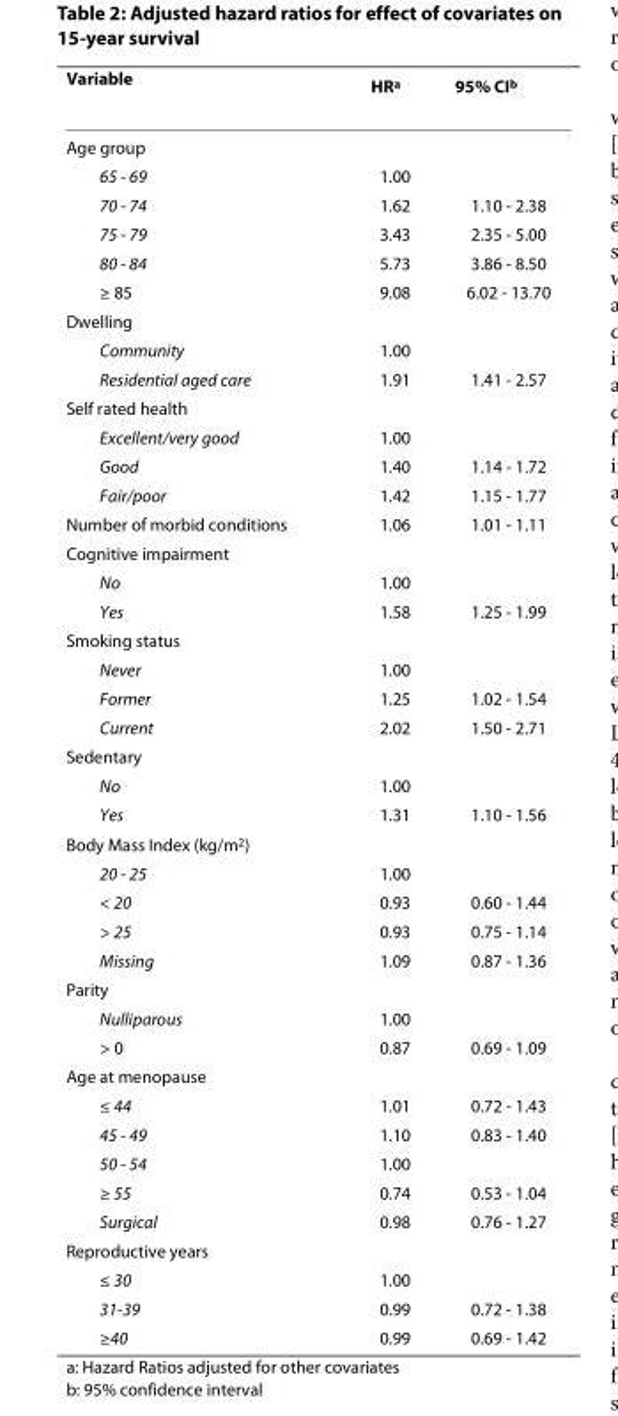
<table><thead><tr><td>Variable</td><td>HR<sup>a</sup></td><td>95% CI<sup>b</sup></td></tr></thead><tbody><tr><td colspan="3">Age group</td></tr><tr><td>65 - 69</td><td>1.00</td><td></td></tr><tr><td>70 - 74</td><td>1.62</td><td>1.10 - 2.38</td></tr><tr><td>75 - 79</td><td>3.43</td><td>2.35 - 5.00</td></tr><tr><td>80 - 84</td><td>5.73</td><td>3.86 - 8.50</td></tr><tr><td>≥ 85</td><td>9.08</td><td>6.02 - 13.70</td></tr><tr><td colspan="3">Dwelling</td></tr><tr><td>Community</td><td>1.00</td><td></td></tr><tr><td>Residential aged care</td><td>1.91</td><td>1.41 - 2.57</td></tr><tr><td colspan="3">Self rated health</td></tr><tr><td>Excellent/very good</td><td>1.00</td><td></td></tr><tr><td>Good</td><td>1.40</td><td>1.14 - 1.72</td></tr><tr><td>Fair/poor</td><td>1.42</td><td>1.15 - 1.77</td></tr><tr><td>Number of morbid conditions</td><td>1.06</td><td>1.01 - 1.11</td></tr><tr><td colspan="3">Cognitive impairment</td></tr><tr><td>No</td><td>1.00</td><td></td></tr><tr><td>Yes</td><td>1.58</td><td>1.25 - 1.99</td></tr><tr><td colspan="3">Smoking status</td></tr><tr><td>Never</td><td>1.00</td><td></td></tr><tr><td>Former</td><td>1.25</td><td>1.02 - 1.54</td></tr><tr><td>Current</td><td>2.02</td><td>1.50 - 2.71</td></tr><tr><td colspan="3">Sedentary</td></tr><tr><td>No</td><td>1.00</td><td></td></tr><tr><td>Yes</td><td>1.31</td><td>1.10 - 1.56</td></tr><tr><td colspan="3">Body Mass Index (kg/m<sup>2</sup>)</td></tr><tr><td>20 - 25</td><td>1.00</td><td></td></tr><tr><td>&lt; 20</td><td>0.93</td><td>0.60 - 1.44</td></tr><tr><td>&gt; 25</td><td>0.93</td><td>0.75 - 1.14</td></tr><tr><td>Missing</td><td>1.09</td><td>0.87 - 1.36</td></tr><tr><td colspan="3">Parity</td></tr><tr><td>Nulliparous</td><td>1.00</td><td></td></tr><tr><td>&gt; 0</td><td>0.87</td><td>0.69 - 1.09</td></tr><tr><td colspan="3">Age at menopause</td></tr><tr><td>≤ 44</td><td>1.01</td><td>0.72 - 1.43</td></tr><tr><td>45 - 49</td><td>1.10</td><td>0.83 - 1.40</td></tr><tr><td>50 - 54</td><td>1.00</td><td></td></tr><tr><td>≥ 55</td><td>0.74</td><td>0.53 - 1.04</td></tr><tr><td>Surgical</td><td>0.98</td><td>0.76 - 1.27</td></tr><tr><td colspan="3">Reproductive years</td></tr><tr><td>≤ 30</td><td>1.00</td><td></td></tr><tr><td>31-39</td><td>0.99</td><td>0.72 - 1.38</td></tr><tr><td>≥40</td><td>0.99</td><td>0.69 - 1.42</td></tr></tbody></table>